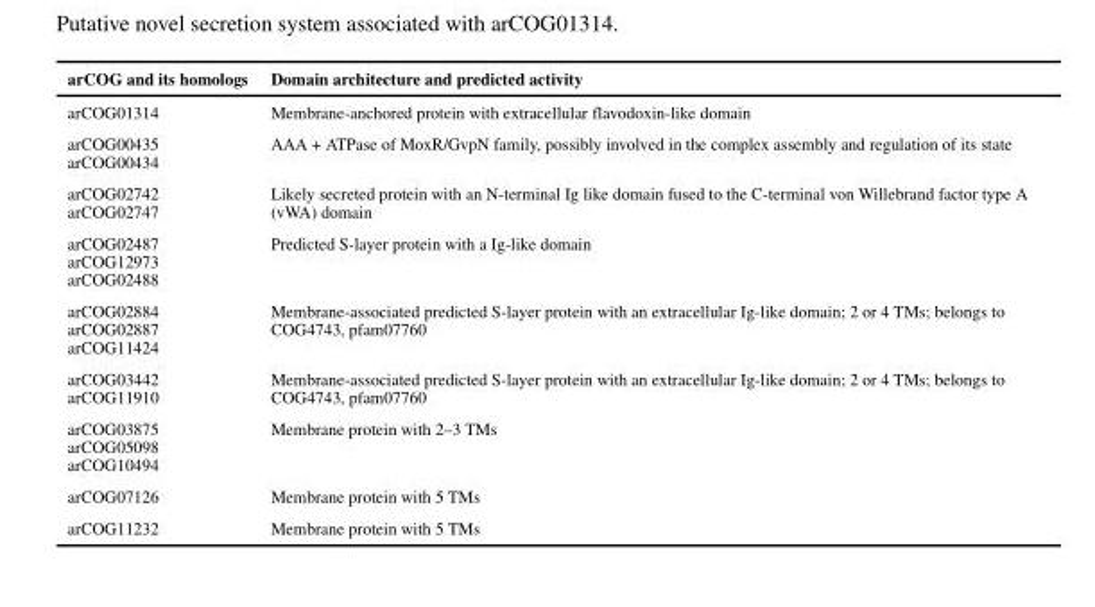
<table><thead><tr><td>arCOG and its homologs</td><td>Domain architecture and predicted activity</td></tr></thead><tbody><tr><td>arCOG01314</td><td>Membrane-anchored protein with extracellular flavodoxin-like domain</td></tr><tr><td>arCOG00435 arCOG00434</td><td>AAA + ATPase of MoxR/GvpN family, possibly involved in the complex assembly and regulation of its state</td></tr><tr><td>arCOG02742 arCOG02747</td><td>Likely secreted protein with an N-terminal Ig like domain fused to the C-terminal von Willebrand factor type A (vWA) domain</td></tr><tr><td>arCOG02487 arCOG12973 arCOG02488</td><td>Predicted S-layer protein with a Ig-like domain</td></tr><tr><td>arCOG02884 arCOG02887 arCOG11424</td><td>Membrane-associated predicted S-layer protein with an extracellular Ig-like domain; 2 or 4 TMs; belongs to COG4743, pfam07760</td></tr><tr><td>arCOG03442 arCOG11910</td><td>Membrane-associated predicted S-layer protein with an extracellular Ig-like domain; 2 or 4 TMs; belongs to COG4743, pfam07760</td></tr><tr><td>arCOG03875 arCOG05098 arCOG10494</td><td>Membrane protein with 2–3 TMs</td></tr><tr><td>arCOG07126</td><td>Membrane protein with 5 TMs</td></tr><tr><td>arCOG11232</td><td>Membrane protein with 5 TMs</td></tr></tbody></table>